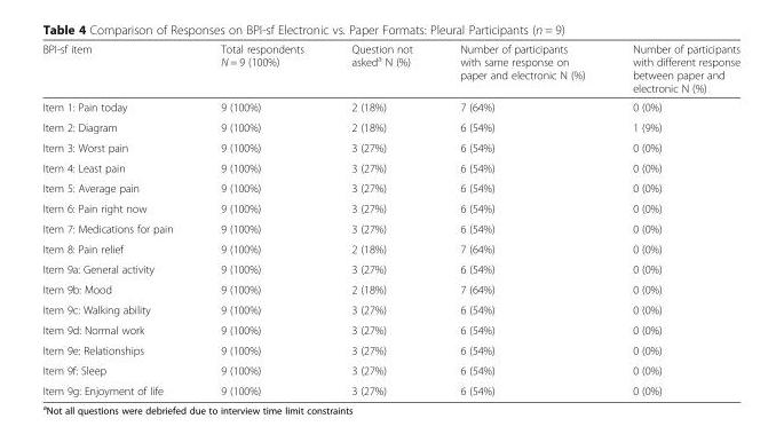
<table><thead><tr><td>BPI-sf item</td><td>Total respondents N = 9 (100%)</td><td>Question not asked<sup>a</sup> N (%)</td><td>Number of participants with same response on paper and electronic N (%)</td><td>Number of participants with different response between paper and electronic N (%)</td></tr></thead><tbody><tr><td>Item 1: Pain today</td><td>9 (100%)</td><td>2 (18%)</td><td>7 (64%)</td><td>0 (0%)</td></tr><tr><td>Item 2: Diagram</td><td>9 (100%)</td><td>2 (18%)</td><td>6 (54%)</td><td>1 (9%)</td></tr><tr><td>Item 3: Worst pain</td><td>9 (100%)</td><td>3 (27%)</td><td>6 (54%)</td><td>0 (0%)</td></tr><tr><td>Item 4: Least pain</td><td>9 (100%)</td><td>3 (27%)</td><td>6 (54%)</td><td>0 (0%)</td></tr><tr><td>Item 5: Average pain</td><td>9 (100%)</td><td>3 (27%)</td><td>6 (54%)</td><td>0 (0%)</td></tr><tr><td>Item 6: Pain right now</td><td>9 (100%)</td><td>3 (27%)</td><td>6 (54%)</td><td>0 (0%)</td></tr><tr><td>Item 7: Medications for pain</td><td>9 (100%)</td><td>3 (27%)</td><td>6 (54%)</td><td>0 (0%)</td></tr><tr><td>Item 8: Pain relief</td><td>9 (100%)</td><td>2 (18%)</td><td>7 (64%)</td><td>0 (0%)</td></tr><tr><td>Item 9a: General activity</td><td>9 (100%)</td><td>3 (27%)</td><td>6 (54%)</td><td>0 (0%)</td></tr><tr><td>Item 9b: Mood</td><td>9 (100%)</td><td>2 (18%)</td><td>7 (64%)</td><td>0 (0%)</td></tr><tr><td>Item 9c: Walking ability</td><td>9 (100%)</td><td>3 (27%)</td><td>6 (54%)</td><td>0 (0%)</td></tr><tr><td>Item 9d: Normal work</td><td>9 (100%)</td><td>3 (27%)</td><td>6 (54%)</td><td>0 (0%)</td></tr><tr><td>Item 9e: Relationships</td><td>9 (100%)</td><td>3 (27%)</td><td>6 (54%)</td><td>0 (0%)</td></tr><tr><td>Item 9f: Sleep</td><td>9 (100%)</td><td>3 (27%)</td><td>6 (54%)</td><td>0 (0%)</td></tr><tr><td>Item 9g: Enjoyment of life</td><td>9 (100%)</td><td>3 (27%)</td><td>6 (54%)</td><td>0 (0%)</td></tr></tbody></table>